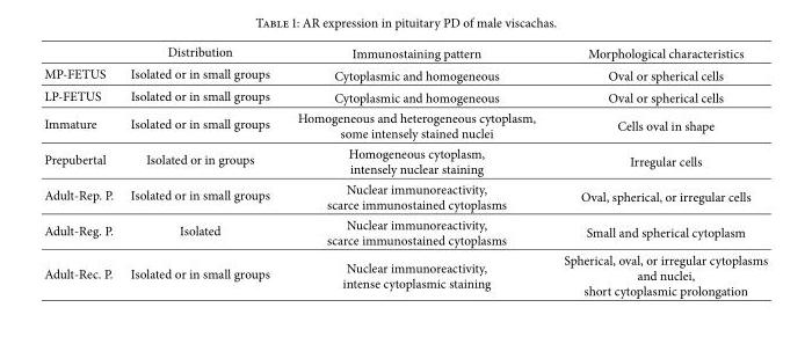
<table><thead><tr><td></td><td>Distribution</td><td>Immunostaining pattern</td><td>Morphological characteristics</td></tr></thead><tbody><tr><td>MP-FETUS</td><td>Isolated or in small groups</td><td>Cytoplasmic and homogeneous</td><td>Oval or spherical cells</td></tr><tr><td>LP-FETUS</td><td>Isolated or in small groups</td><td>Cytoplasmic and homogeneous</td><td>Oval or spherical cells</td></tr><tr><td>Immature</td><td>Isolated or in small groups</td><td>Homogeneous and heterogeneous cytoplasm, some intensely stained nuclei</td><td>Cells oval in shape</td></tr><tr><td>Prepubertal</td><td>Isolated or in groups</td><td>Homogeneous cytoplasm, intensely nuclear staining</td><td>Irregular cells</td></tr><tr><td>Adult-Rep. P.</td><td>Isolated or in small groups</td><td>Nuclear immunoreactivity, scarce immunostained cytoplasms</td><td>Oval, spherical, or irregular cells</td></tr><tr><td>Adult-Reg. P.</td><td>Isolated</td><td>Nuclear immunoreactivity, scarce immunostained cytoplasms</td><td>Small and spherical cytoplasm</td></tr><tr><td>Adult-Rec. P.</td><td>Isolated or in small groups</td><td>Nuclear immunoreactivity, intense cytoplasmic staining</td><td>Spherical, oval, or irregular cytoplasms and nuclei, short cytoplasmic prolongation</td></tr></tbody></table>